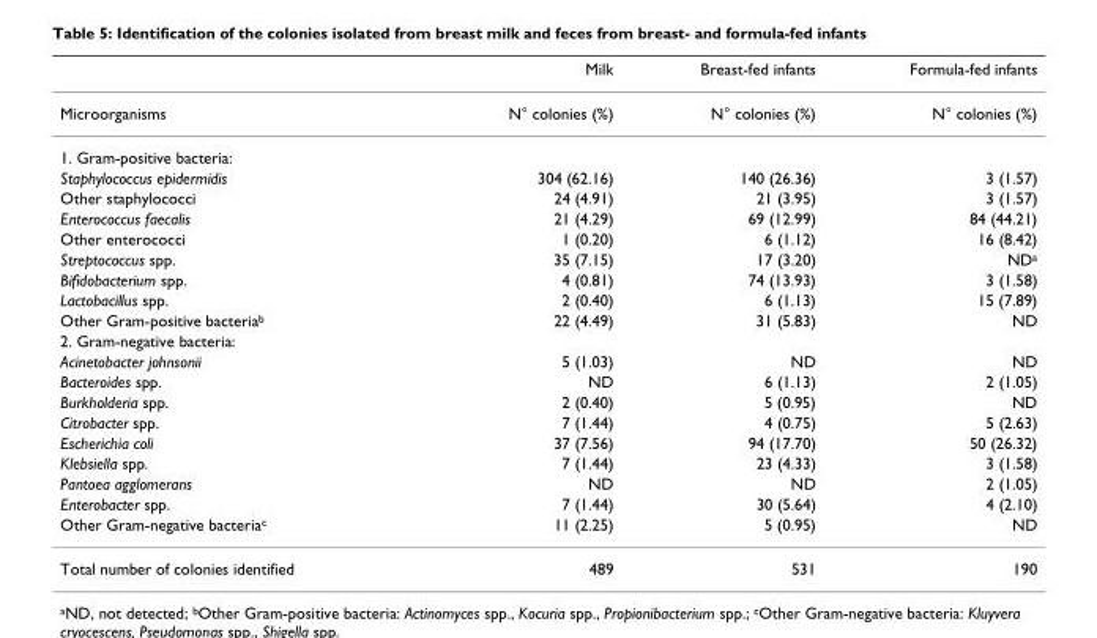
<table><thead><tr><td></td><td>Milk</td><td>Breast-fed infants</td><td>Formula-fed infants</td></tr></thead><tbody><tr><td>Microorganisms</td><td>N° colonies (%)</td><td>N° colonies (%)</td><td>N° colonies (%)</td></tr><tr><td colspan="4">1. Gram-positive bacteria:</td></tr><tr><td>Staphylococcus epidermidis</td><td>304 (62.16)</td><td>140 (26.36)</td><td>3 (1.57)</td></tr><tr><td>Other staphylococci</td><td>24 (4.91)</td><td>21 (3.95)</td><td>3 (1.57)</td></tr><tr><td>Enterococcus faecalis</td><td>21 (4.29)</td><td>69 (12.99)</td><td>84 (44.21)</td></tr><tr><td>Other enterococci</td><td>1 (0.20)</td><td>6 (1.12)</td><td>16 (8.42)</td></tr><tr><td>Streptococcus spp.</td><td>35 (7.15)</td><td>17 (3.20)</td><td>ND<sup>a</sup></td></tr><tr><td>Bifidobacterium spp.</td><td>4 (0.81)</td><td>74 (13.93)</td><td>3 (1.58)</td></tr><tr><td>Lactobacillus spp.</td><td>2 (0.40)</td><td>6 (1.13)</td><td>15 (7.89)</td></tr><tr><td>Other Gram-positive bacteria<sup>b</sup></td><td>22 (4.49)</td><td>31 (5.83)</td><td>ND</td></tr><tr><td colspan="4">2. Gram-negative bacteria:</td></tr><tr><td>Acinetobacter johnsonii</td><td>5 (1.03)</td><td>ND</td><td>ND</td></tr><tr><td>Bacteroides spp.</td><td>ND</td><td>6 (1.13)</td><td>2 (1.05)</td></tr><tr><td>Burkholderia spp.</td><td>2 (0.40)</td><td>5 (0.95)</td><td>ND</td></tr><tr><td>Citrobacter spp.</td><td>7 (1.44)</td><td>4 (0.75)</td><td>5 (2.63)</td></tr><tr><td>Escherichia coli</td><td>37 (7.56)</td><td>94 (17.70)</td><td>50 (26.32)</td></tr><tr><td>Klebsiella spp.</td><td>7 (1.44)</td><td>23 (4.33)</td><td>3 (1.58)</td></tr><tr><td>Pantoea agglomerans</td><td>ND</td><td>ND</td><td>2 (1.05)</td></tr><tr><td>Enterobacter spp.</td><td>7 (1.44)</td><td>30 (5.64)</td><td>4 (2.10)</td></tr><tr><td>Other Gram-negative bacteria<sup>c</sup></td><td>11 (2.25)</td><td>5 (0.95)</td><td>ND</td></tr><tr><td>Total number of colonies identified</td><td>489</td><td>531</td><td>190</td></tr></tbody></table>